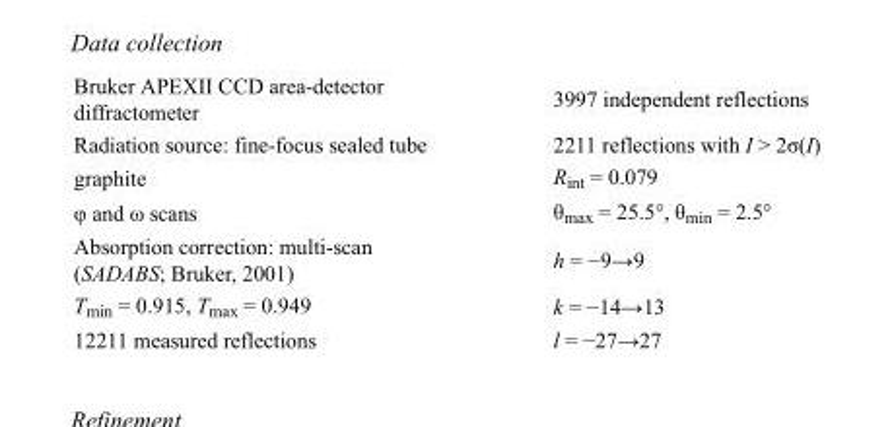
<table><tbody><tr><td>Bruker APEXII CCD area-detector diffractometer</td><td>3997 independent reflections</td></tr><tr><td>Radiation source: fine-focus sealed tube</td><td>2211 reflections with I &gt; 2σ(I)</td></tr><tr><td>graphite</td><td>R<sub>int</sub> = 0.079</td></tr><tr><td>φ and ω scans</td><td>θ<sub>max</sub> = 25.5°, θ<sub>min</sub> = 2.5°</td></tr><tr><td>Absorption correction: multi-scan (SADABS; Bruker, 2001)</td><td>h = −9→9</td></tr><tr><td>T<sub>min</sub> = 0.915, T<sub>max</sub> = 0.949</td><td>k = −14→13</td></tr><tr><td>12211 measured reflections</td><td>l = −27→27</td></tr></tbody></table>